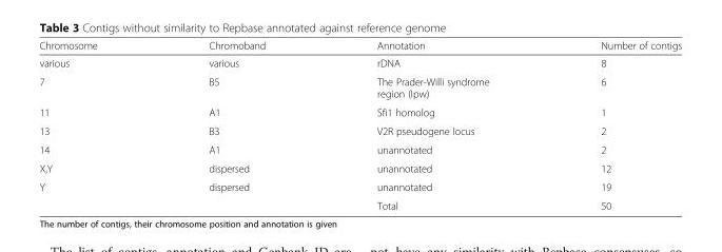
<table><thead><tr><td>Chromosome</td><td>Chromoband</td><td>Annotation</td><td>Number of contigs</td></tr></thead><tbody><tr><td>various</td><td>various</td><td>rDNA</td><td>8</td></tr><tr><td>7</td><td>B5</td><td>The Prader-Willi syndrome region (Ipw)</td><td>6</td></tr><tr><td>11</td><td>A1</td><td>Sfi1 homolog</td><td>1</td></tr><tr><td>13</td><td>B3</td><td>V2R pseudogene locus</td><td>2</td></tr><tr><td>14</td><td>A1</td><td>unannotated</td><td>2</td></tr><tr><td>X,Y</td><td>dispersed</td><td>unannotated</td><td>12</td></tr><tr><td rowspan="2">Y</td><td>dispersed</td><td>unannotated</td><td>19</td></tr><tr><td></td><td>Total</td><td>50</td></tr></tbody></table>